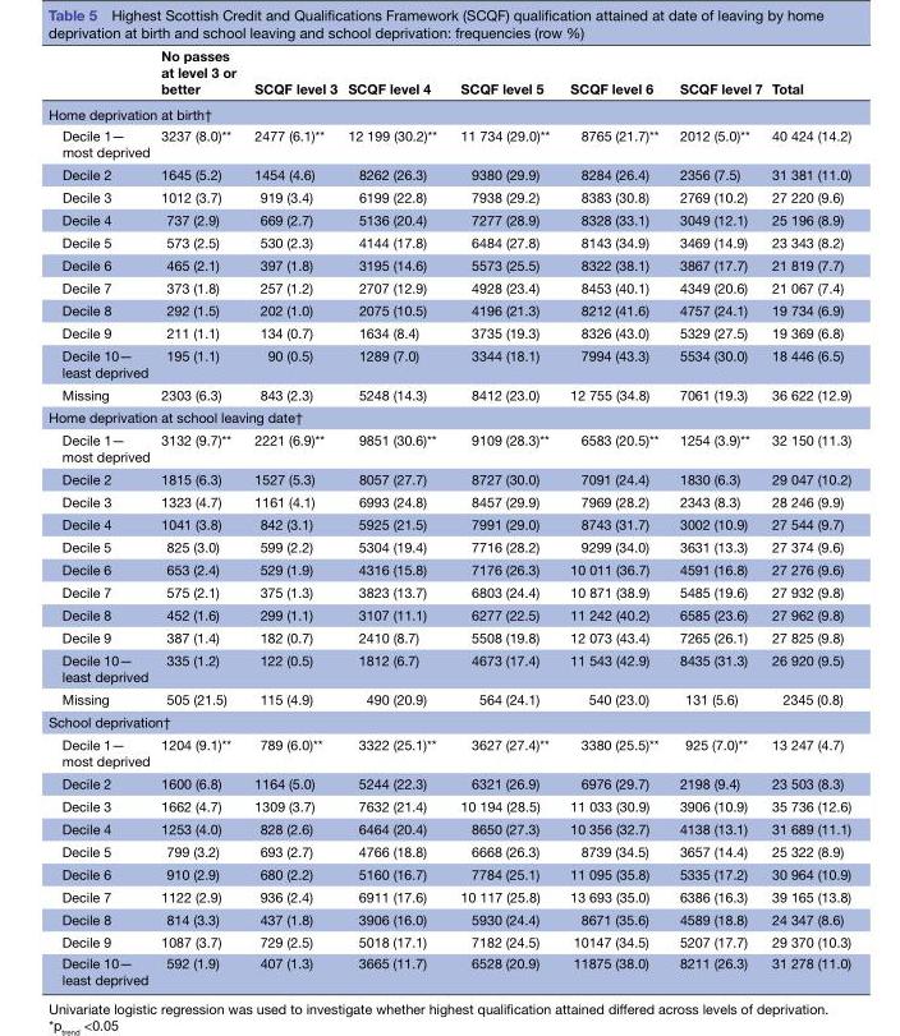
<table><thead><tr><td></td><td>No passes at level 3 or better</td><td>SCQF level 3</td><td>SCQF level 4</td><td>SCQF level 5</td><td>SCQF level 6</td><td>SCQF level 7</td><td>Total</td></tr></thead><tbody><tr><td colspan="8">Home deprivation at birth†</td></tr><tr><td>Decile 1— most deprived</td><td>3237 (8.0)**</td><td>2477 (6.1)**</td><td>12 199 (30.2)**</td><td>11 734 (29.0)**</td><td>8765 (21.7)**</td><td>2012 (5.0)**</td><td>40 424 (14.2)</td></tr><tr><td>Decile 2</td><td>1645 (5.2)</td><td>1454 (4.6)</td><td>8262 (26.3)</td><td>9380 (29.9)</td><td>8284 (26.4)</td><td>2356 (7.5)</td><td>31 381 (11.0)</td></tr><tr><td>Decile 3</td><td>1012 (3.7)</td><td>919 (3.4)</td><td>6199 (22.8)</td><td>7938 (29.2)</td><td>8383 (30.8)</td><td>2769 (10.2)</td><td>27 220 (9.6)</td></tr><tr><td>Decile 4</td><td>737 (2.9)</td><td>669 (2.7)</td><td>5136 (20.4)</td><td>7277 (28.9)</td><td>8328 (33.1)</td><td>3049 (12.1)</td><td>25 196 (8.9)</td></tr><tr><td>Decile 5</td><td>573 (2.5)</td><td>530 (2.3)</td><td>4144 (17.8)</td><td>6484 (27.8)</td><td>8143 (34.9)</td><td>3469 (14.9)</td><td>23 343 (8.2)</td></tr><tr><td>Decile 6</td><td>465 (2.1)</td><td>397 (1.8)</td><td>3195 (14.6)</td><td>5573 (25.5)</td><td>8322 (38.1)</td><td>3867 (17.7)</td><td>21 819 (7.7)</td></tr><tr><td>Decile 7</td><td>373 (1.8)</td><td>257 (1.2)</td><td>2707 (12.9)</td><td>4928 (23.4)</td><td>8453 (40.1)</td><td>4349 (20.6)</td><td>21 067 (7.4)</td></tr><tr><td>Decile 8</td><td>292 (1.5)</td><td>202 (1.0)</td><td>2075 (10.5)</td><td>4196 (21.3)</td><td>8212 (41.6)</td><td>4757 (24.1)</td><td>19 734 (6.9)</td></tr><tr><td>Decile 9</td><td>211 (1.1)</td><td>134 (0.7)</td><td>1634 (8.4)</td><td>3735 (19.3)</td><td>8326 (43.0)</td><td>5329 (27.5)</td><td>19 369 (6.8)</td></tr><tr><td>Decile 10— least deprived</td><td>195 (1.1)</td><td>90 (0.5)</td><td>1289 (7.0)</td><td>3344 (18.1)</td><td>7994 (43.3)</td><td>5534 (30.0)</td><td>18 446 (6.5)</td></tr><tr><td>Missing</td><td>2303 (6.3)</td><td>843 (2.3)</td><td>5248 (14.3)</td><td>8412 (23.0)</td><td>12 755 (34.8)</td><td>7061 (19.3)</td><td>36 622 (12.9)</td></tr><tr><td colspan="8">Home deprivation at school leaving date†</td></tr><tr><td>Decile 1— most deprived</td><td>3132 (9.7)**</td><td>2221 (6.9)**</td><td>9851 (30.6)**</td><td>9109 (28.3)**</td><td>6583 (20.5)**</td><td>1254 (3.9)**</td><td>32 150 (11.3)</td></tr><tr><td>Decile 2</td><td>1815 (6.3)</td><td>1527 (5.3)</td><td>8057 (27.7)</td><td>8727 (30.0)</td><td>7091 (24.4)</td><td>1830 (6.3)</td><td>29 047 (10.2)</td></tr><tr><td>Decile 3</td><td>1323 (4.7)</td><td>1161 (4.1)</td><td>6993 (24.8)</td><td>8457 (29.9)</td><td>7969 (28.2)</td><td>2343 (8.3)</td><td>28 246 (9.9)</td></tr><tr><td>Decile 4</td><td>1041 (3.8)</td><td>842 (3.1)</td><td>5925 (21.5)</td><td>7991 (29.0)</td><td>8743 (31.7)</td><td>3002 (10.9)</td><td>27 544 (9.7)</td></tr><tr><td>Decile 5</td><td>825 (3.0)</td><td>599 (2.2)</td><td>5304 (19.4)</td><td>7716 (28.2)</td><td>9299 (34.0)</td><td>3631 (13.3)</td><td>27 374 (9.6)</td></tr><tr><td>Decile 6</td><td>653 (2.4)</td><td>529 (1.9)</td><td>4316 (15.8)</td><td>7176 (26.3)</td><td>10 011 (36.7)</td><td>4591 (16.8)</td><td>27 276 (9.6)</td></tr><tr><td>Decile 7</td><td>575 (2.1)</td><td>375 (1.3)</td><td>3823 (13.7)</td><td>6803 (24.4)</td><td>10 871 (38.9)</td><td>5485 (19.6)</td><td>27 932 (9.8)</td></tr><tr><td>Decile 8</td><td>452 (1.6)</td><td>299 (1.1)</td><td>3107 (11.1)</td><td>6277 (22.5)</td><td>11 242 (40.2)</td><td>6585 (23.6)</td><td>27 962 (9.8)</td></tr><tr><td>Decile 9</td><td>387 (1.4)</td><td>182 (0.7)</td><td>2410 (8.7)</td><td>5508 (19.8)</td><td>12 073 (43.4)</td><td>7265 (26.1)</td><td>27 825 (9.8)</td></tr><tr><td>Decile 10— least deprived</td><td>335 (1.2)</td><td>122 (0.5)</td><td>1812 (6.7)</td><td>4673 (17.4)</td><td>11 543 (42.9)</td><td>8435 (31.3)</td><td>26 920 (9.5)</td></tr><tr><td>Missing</td><td>505 (21.5)</td><td>115 (4.9)</td><td>490 (20.9)</td><td>564 (24.1)</td><td>540 (23.0)</td><td>131 (5.6)</td><td>2345 (0.8)</td></tr><tr><td colspan="8">School deprivation†</td></tr><tr><td>Decile 1— most deprived</td><td>1204 (9.1)**</td><td>789 (6.0)**</td><td>3322 (25.1)**</td><td>3627 (27.4)**</td><td>3380 (25.5)**</td><td>925 (7.0)**</td><td>13 247 (4.7)</td></tr><tr><td>Decile 2</td><td>1600 (6.8)</td><td>1164 (5.0)</td><td>5244 (22.3)</td><td>6321 (26.9)</td><td>6976 (29.7)</td><td>2198 (9.4)</td><td>23 503 (8.3)</td></tr><tr><td>Decile 3</td><td>1662 (4.7)</td><td>1309 (3.7)</td><td>7632 (21.4)</td><td>10 194 (28.5)</td><td>11 033 (30.9)</td><td>3906 (10.9)</td><td>35 736 (12.6)</td></tr><tr><td>Decile 4</td><td>1253 (4.0)</td><td>828 (2.6)</td><td>6464 (20.4)</td><td>8650 (27.3)</td><td>10 356 (32.7)</td><td>4138 (13.1)</td><td>31 689 (11.1)</td></tr><tr><td>Decile 5</td><td>799 (3.2)</td><td>693 (2.7)</td><td>4766 (18.8)</td><td>6668 (26.3)</td><td>8739 (34.5)</td><td>3657 (14.4)</td><td>25 322 (8.9)</td></tr><tr><td>Decile 6</td><td>910 (2.9)</td><td>680 (2.2)</td><td>5160 (16.7)</td><td>7784 (25.1)</td><td>11 095 (35.8)</td><td>5335 (17.2)</td><td>30 964 (10.9)</td></tr><tr><td>Decile 7</td><td>1122 (2.9)</td><td>936 (2.4)</td><td>6911 (17.6)</td><td>10 117 (25.8)</td><td>13 693 (35.0)</td><td>6386 (16.3)</td><td>39 165 (13.8)</td></tr><tr><td>Decile 8</td><td>814 (3.3)</td><td>437 (1.8)</td><td>3906 (16.0)</td><td>5930 (24.4)</td><td>8671 (35.6)</td><td>4589 (18.8)</td><td>24 347 (8.6)</td></tr><tr><td>Decile 9</td><td>1087 (3.7)</td><td>729 (2.5)</td><td>5018 (17.1)</td><td>7182 (24.5)</td><td>10147 (34.5)</td><td>5207 (17.7)</td><td>29 370 (10.3)</td></tr><tr><td>Decile 10— least deprived</td><td>592 (1.9)</td><td>407 (1.3)</td><td>3665 (11.7)</td><td>6528 (20.9)</td><td>11875 (38.0)</td><td>8211 (26.3)</td><td>31 278 (11.0)</td></tr></tbody></table>